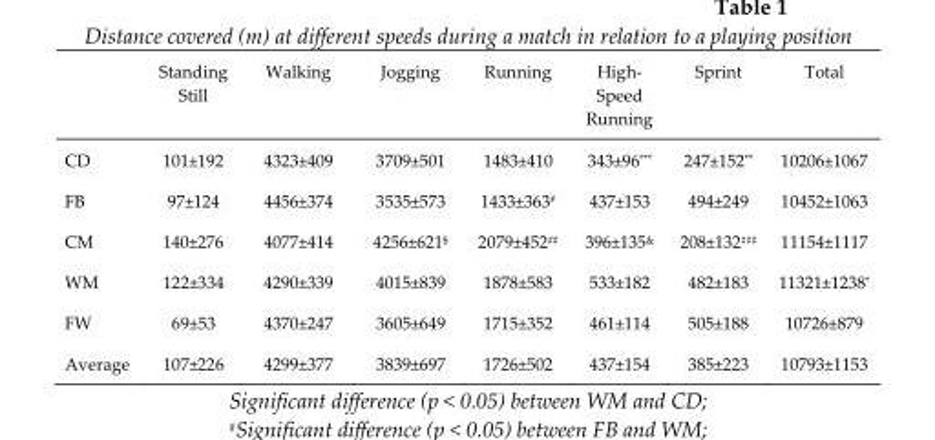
<table><thead><tr><td></td><td>Standing Still</td><td>Walking</td><td>Jogging</td><td>Running</td><td>High- Speed Running</td><td>Sprint</td><td>Total</td></tr></thead><tbody><tr><td>CD</td><td>101±192</td><td>4323±409</td><td>3709±501</td><td>1483±410</td><td>343±96***</td><td>247±152**</td><td>10206±1067</td></tr><tr><td>FB</td><td>97±124</td><td>4456±374</td><td>3535±573</td><td>1433±363#</td><td>437±153</td><td>494±249</td><td>10452±1063</td></tr><tr><td>CM</td><td>140±276</td><td>4077±414</td><td>4256±621$</td><td>2079±452##</td><td>396±135&amp;</td><td>208±132###</td><td>11154±1117</td></tr><tr><td>WM</td><td>122±334</td><td>4290±339</td><td>4015±839</td><td>1878±583</td><td>533±182</td><td>482±183</td><td>11321±1238*</td></tr><tr><td>FW</td><td>69±53</td><td>4370±247</td><td>3605±649</td><td>1715±352</td><td>461±114</td><td>505±188</td><td>10726±879</td></tr><tr><td>Average</td><td>107±226</td><td>4299±377</td><td>3839±697</td><td>1726±502</td><td>437±154</td><td>385±223</td><td>10793±1153</td></tr></tbody></table>